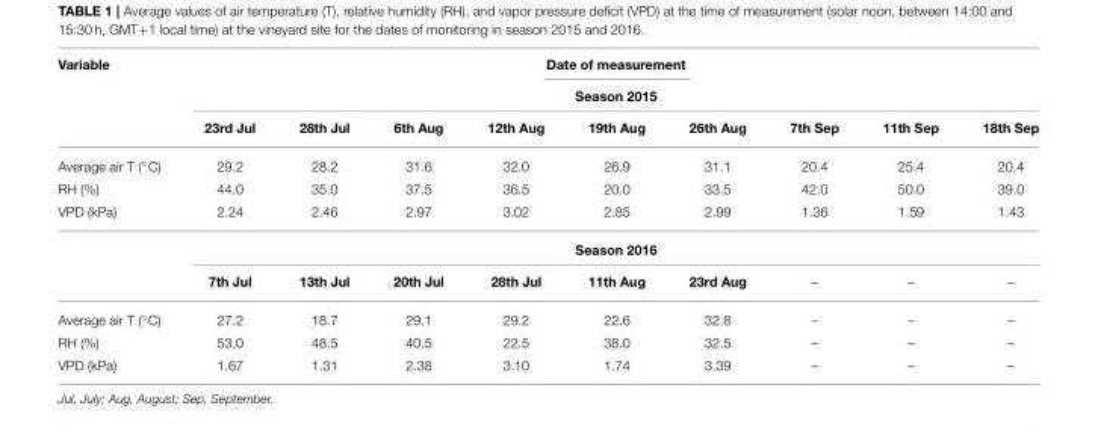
<table><thead><tr><td rowspan="3">Variable</td><td></td><td></td><td></td><td></td><td>Date of measurement</td><td></td><td></td><td></td><td></td></tr><tr><td colspan="9">Season 2015</td></tr><tr><td>23rd Jul</td><td>28th Jul</td><td>6th Aug</td><td>12th Aug</td><td>19th Aug</td><td>26th Aug</td><td>7th Sep</td><td>11th Sep</td><td>18th Sep</td></tr></thead><tbody><tr><td>Average air T (◦C)</td><td>29.2</td><td>28.2</td><td>31.6</td><td>32.0</td><td>26.9</td><td>31.1</td><td>20.4</td><td>25.4</td><td>20.4</td></tr><tr><td>RH (%)</td><td>44.0</td><td>35.0</td><td>37.5</td><td>36.5</td><td>20.0</td><td>33.5</td><td>42.0</td><td>50.0</td><td>39.0</td></tr><tr><td rowspan="3">VPD (kPa)</td><td>2.24</td><td>2.46</td><td>2.97</td><td>3.02</td><td>2.85</td><td>2.99</td><td>1.36</td><td>1.59</td><td>1.43</td></tr><tr><td colspan="9">Season 2016</td></tr><tr><td>7th Jul</td><td>13th Jul</td><td>20th Jul</td><td>28th Jul</td><td>11th Aug</td><td>23rd Aug</td><td>–</td><td>–</td><td>–</td></tr><tr><td>Average air T (◦C)</td><td>27.2</td><td>18.7</td><td>29.1</td><td>29.2</td><td>22.6</td><td>32.8</td><td>–</td><td>–</td><td>–</td></tr><tr><td>RH (%)</td><td>53.0</td><td>48.5</td><td>40.5</td><td>22.5</td><td>38.0</td><td>32.5</td><td>–</td><td>–</td><td>–</td></tr><tr><td>VPD (kPa)</td><td>1.67</td><td>1.31</td><td>2.38</td><td>3.10</td><td>1.74</td><td>3.39</td><td>–</td><td>–</td><td>–</td></tr></tbody></table>